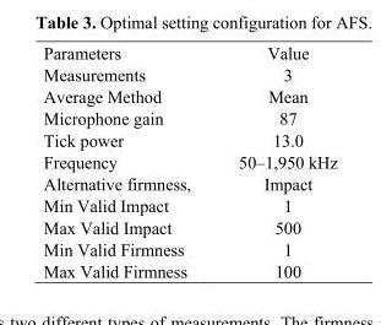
<table><thead><tr><td>Parameters</td><td>Value</td></tr></thead><tbody><tr><td>Measurements</td><td>3</td></tr><tr><td>Average Method</td><td>Mean</td></tr><tr><td>Microphone gain</td><td>87</td></tr><tr><td>Tick power</td><td>13.0</td></tr><tr><td>Frequency</td><td>50–1,950 kHz</td></tr><tr><td>Alternative firmness,</td><td>Impact</td></tr><tr><td>Min Valid Impact</td><td>1</td></tr><tr><td>Max Valid Impact</td><td>500</td></tr><tr><td>Min Valid Firmness</td><td>1</td></tr><tr><td>Max Valid Firmness</td><td>100</td></tr></tbody></table>